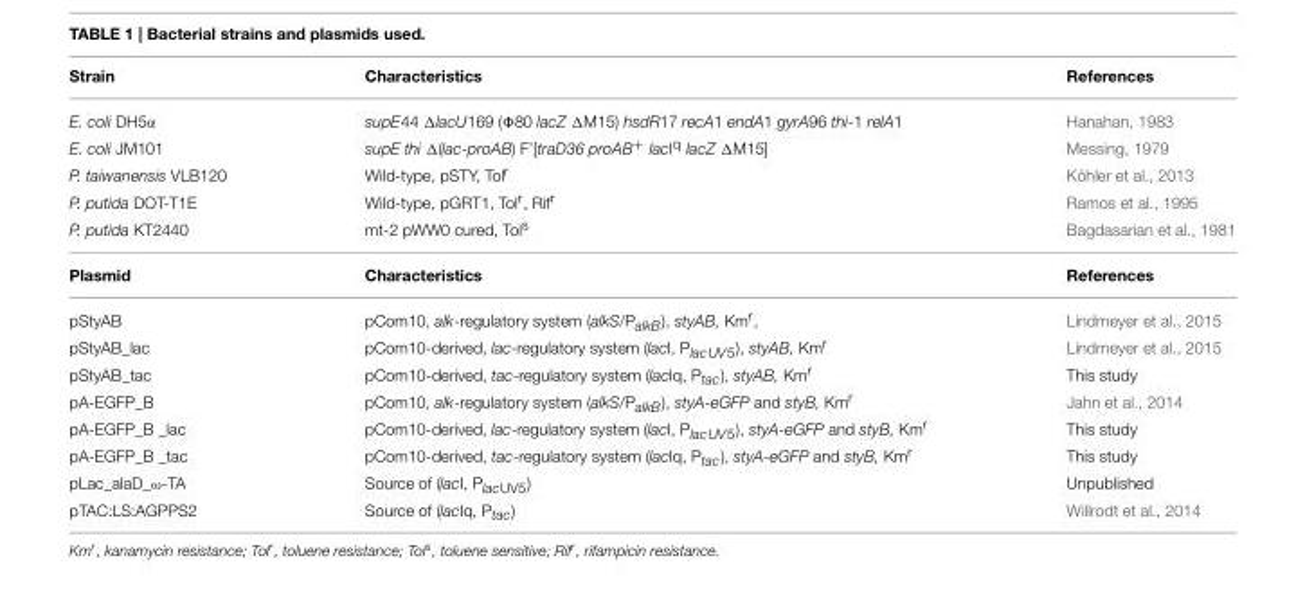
<table><thead><tr><td>Strain</td><td>Characteristics</td><td>References</td></tr></thead><tbody><tr><td>E. coli DH5α</td><td>supE44 ΔlacU169 (Φ80 lacZ ΔM15) hsdR17 recA1 endA1 gyrA96 thi-1 relA1</td><td>Hanahan, 1983</td></tr><tr><td>E. coli JM101</td><td>supE thi Δ(lac-proAB) F’[traD36 proAB<sup>+</sup> lacI<sup>q</sup> lacZ ΔM15]</td><td>Messing, 1979</td></tr><tr><td>P. taiwanensis VLB120</td><td>Wild-type, pSTY, Tol<sup>r</sup></td><td>Köhler et al., 2013</td></tr><tr><td>P. putida DOT-T1E</td><td>Wild-type, pGRT1, Tol<sup>r</sup>, Rif<sup>r</sup></td><td>Ramos et al., 1995</td></tr><tr><td>P. putida KT2440</td><td>mt-2 pWW0 cured, Tol<sup>s</sup></td><td>Bagdasarian et al., 1981</td></tr><tr><td>Plasmid</td><td>Characteristics</td><td>References</td></tr><tr><td>pStyAB</td><td>pCom10, alk-regulatory system (alkS/PalkB), styAB, Kmr,</td><td>Lindmeyer et al., 2015</td></tr><tr><td>pStyAB_lac</td><td>pCom10-derived, lac-regulatory system (lacI, PlacUV5), styAB, Kmr</td><td>Lindmeyer et al., 2015</td></tr><tr><td>pStyAB_tac</td><td>pCom10-derived, tac-regulatory system (lacIq, Ptac), styAB, Kmr</td><td>This study</td></tr><tr><td>pA-EGFP_B</td><td>pCom10, alk-regulatory system (alkS/PalkB), styA-eGFP and styB, Kmr</td><td>Jahn et al., 2014</td></tr><tr><td>pA-EGFP_B _lac</td><td>pCom10-derived, lac-regulatory system (lacI, PlacUV5), styA-eGFP and styB, Kmr</td><td>This study</td></tr><tr><td>pA-EGFP_B _tac</td><td>pCom10-derived, tac-regulatory system (lacIq, Ptac), styA-eGFP and styB, Kmr</td><td>This study</td></tr><tr><td>pLac_alaD_ω-TA</td><td>Source of (lacI, PlacUV5)</td><td>Unpublished</td></tr><tr><td>pTAC:LS:AGPPS2</td><td>Source of (lacIq, Ptac)</td><td>Willrodt et al., 2014</td></tr></tbody></table>